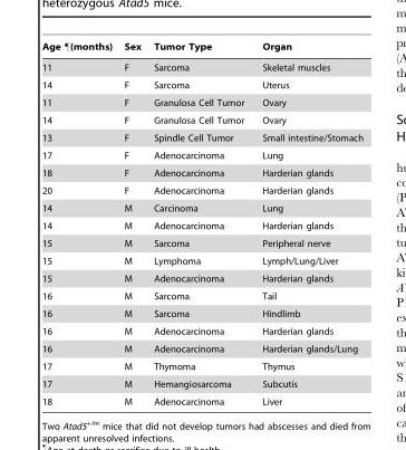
<table><thead><tr><td>Age ¶(months)</td><td>Sex</td><td>Tumor Type</td><td>Organ</td></tr></thead><tbody><tr><td>11</td><td>F</td><td>Sarcoma</td><td>Skeletal muscles</td></tr><tr><td>14</td><td>F</td><td>Sarcoma</td><td>Uterus</td></tr><tr><td>11</td><td>F</td><td>Granulosa Cell Tumor</td><td>Ovary</td></tr><tr><td>14</td><td>F</td><td>Granulosa Cell Tumor</td><td>Ovary</td></tr><tr><td>13</td><td>F</td><td>Spindle Cell Tumor</td><td>Small intestine/Stomach</td></tr><tr><td>17</td><td>F</td><td>Adenocarcinoma</td><td>Lung</td></tr><tr><td>18</td><td>F</td><td>Adenocarcinoma</td><td>Harderian glands</td></tr><tr><td>20</td><td>F</td><td>Adenocarcinoma</td><td>Harderian glands</td></tr><tr><td>14</td><td>M</td><td>Carcinoma</td><td>Lung</td></tr><tr><td>14</td><td>M</td><td>Adenocarcinoma</td><td>Harderian glands</td></tr><tr><td>15</td><td>M</td><td>Sarcoma</td><td>Peripheral nerve</td></tr><tr><td>15</td><td>M</td><td>Lymphoma</td><td>Lymph/Lung/Liver</td></tr><tr><td>15</td><td>M</td><td>Adenocarcinoma</td><td>Harderian glands</td></tr><tr><td>16</td><td>M</td><td>Sarcoma</td><td>Tail</td></tr><tr><td>16</td><td>M</td><td>Sarcoma</td><td>Hindlimb</td></tr><tr><td>16</td><td>M</td><td>Adenocarcinoma</td><td>Harderian glands</td></tr><tr><td>16</td><td>M</td><td>Adenocarcinoma</td><td>Harderian glands/Lung</td></tr><tr><td>17</td><td>M</td><td>Thymoma</td><td>Thymus</td></tr><tr><td>17</td><td>M</td><td>Hemangiosarcoma</td><td>Subcutis</td></tr><tr><td>18</td><td>M</td><td>Adenocarcinoma</td><td>Liver</td></tr></tbody></table>